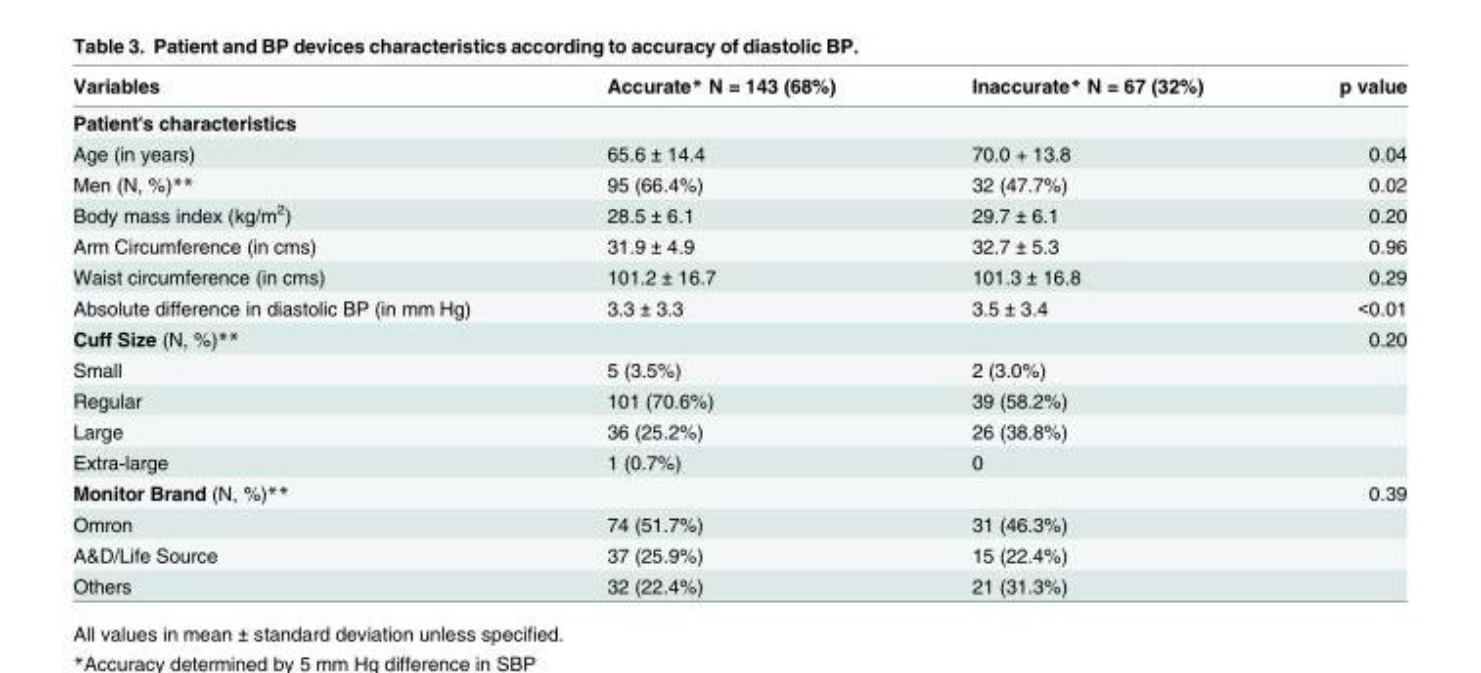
<table><thead><tr><td>Variables</td><td>Accurate* N = 143 (68%)</td><td>Inaccurate* N = 67 (32%)</td><td>p value</td></tr></thead><tbody><tr><td colspan="4">Patient&#x27;s characteristics</td></tr><tr><td>Age (in years)</td><td>65.6 ± 14.4</td><td>70.0 + 13.8</td><td>0.04</td></tr><tr><td>Men (N, %)**</td><td>95 (66.4%)</td><td>32 (47.7%)</td><td>0.02</td></tr><tr><td>Body mass index (kg/m<sup>2</sup>)</td><td>28.5 ± 6.1</td><td>29.7 ± 6.1</td><td>0.20</td></tr><tr><td>Arm Circumference (in cms)</td><td>31.9 ± 4.9</td><td>32.7 ± 5.3</td><td>0.96</td></tr><tr><td>Waist circumference (in cms)</td><td>101.2 ± 16.7</td><td>101.3 ± 16.8</td><td>0.29</td></tr><tr><td>Absolute difference in diastolic BP (in mm Hg)</td><td>3.3 ± 3.3</td><td>3.5 ± 3.4</td><td>&lt;0.01</td></tr><tr><td>Cuff Size (N, %)**</td><td></td><td></td><td>0.20</td></tr><tr><td>Small</td><td>5 (3.5%)</td><td>2 (3.0%)</td><td></td></tr><tr><td>Regular</td><td>101 (70.6%)</td><td>39 (58.2%)</td><td></td></tr><tr><td>Large</td><td>36 (25.2%)</td><td>26 (38.8%)</td><td></td></tr><tr><td>Extra-large</td><td>1 (0.7%)</td><td>0</td><td></td></tr><tr><td>Monitor Brand (N, %)**</td><td></td><td></td><td>0.39</td></tr><tr><td>Omron</td><td>74 (51.7%)</td><td>31 (46.3%)</td><td></td></tr><tr><td>A&amp;D/Life Source</td><td>37 (25.9%)</td><td>15 (22.4%)</td><td></td></tr><tr><td>Others</td><td>32 (22.4%)</td><td>21 (31.3%)</td><td></td></tr></tbody></table>